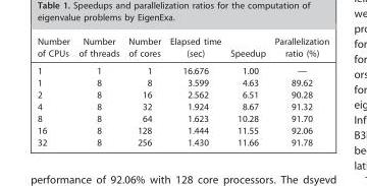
<table><thead><tr><td>Number of CPUs</td><td>Number of threads</td><td>Number of cores</td><td>Elapsed time (sec)</td><td>Speedup</td><td>Parallelization ratio (%)</td></tr></thead><tbody><tr><td>1</td><td>1</td><td>1</td><td>16.676</td><td>1.00</td><td>—</td></tr><tr><td>1</td><td>8</td><td>8</td><td>3.599</td><td>4.63</td><td>89.62</td></tr><tr><td>2</td><td>8</td><td>16</td><td>2.562</td><td>6.51</td><td>90.28</td></tr><tr><td>4</td><td>8</td><td>32</td><td>1.924</td><td>8.67</td><td>91.32</td></tr><tr><td>8</td><td>8</td><td>64</td><td>1.623</td><td>10.28</td><td>91.70</td></tr><tr><td>16</td><td>8</td><td>128</td><td>1.444</td><td>11.55</td><td>92.06</td></tr><tr><td>32</td><td>8</td><td>256</td><td>1.430</td><td>11.66</td><td>91.78</td></tr></tbody></table>